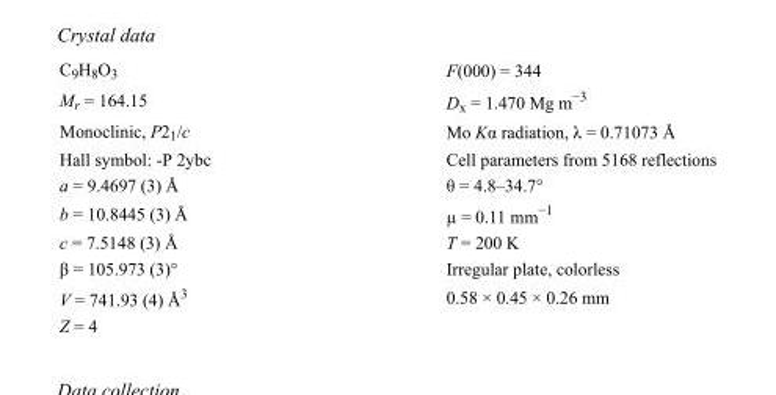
<table><tbody><tr><td>C<sub>9</sub>H<sub>8</sub>O<sub>3</sub></td><td>F(000) = 344</td></tr><tr><td>M<sub>r</sub> = 164.15</td><td>D<sub>x</sub> = 1.470 Mg m<sup>−3</sup></td></tr><tr><td>Monoclinic, P2<sub>1</sub>/c</td><td>Mo Kα radiation, λ = 0.71073 Å</td></tr><tr><td>Hall symbol: -P 2ybc</td><td>Cell parameters from 5168 reflections</td></tr><tr><td>a = 9.4697 (3) Å</td><td>θ = 4.8–34.7°</td></tr><tr><td>b = 10.8445 (3) Å</td><td>µ = 0.11 mm<sup>−1</sup></td></tr><tr><td>c = 7.5148 (3) Å</td><td>T = 200 K</td></tr><tr><td>β = 105.973 (3)°</td><td>Irregular plate, colorless</td></tr><tr><td>V = 741.93 (4) Å<sup>3</sup></td><td>0.58 × 0.45 × 0.26 mm</td></tr><tr><td>Z = 4</td><td></td></tr></tbody></table>